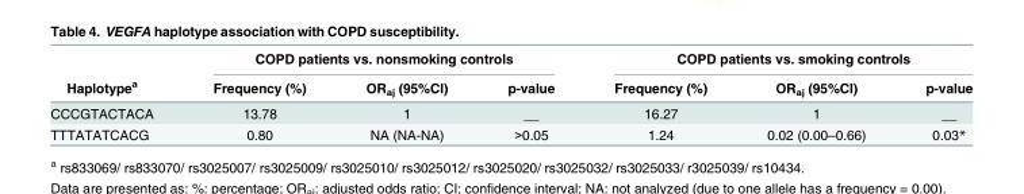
<table><thead><tr><td rowspan="2">Haplotype<sup>a</sup></td><td colspan="3">COPD patients vs. nonsmoking controls</td><td colspan="3">COPD patients vs. smoking controls</td></tr><tr><td>Frequency (%)</td><td>OR<sub>aj</sub> (95%CI)</td><td>p-value</td><td>Frequency (%)</td><td>OR<sub>aj</sub> (95%CI)</td><td>p-value</td></tr></thead><tbody><tr><td>CCCGTACTACA</td><td>13.78</td><td>1</td><td>__</td><td>16.27</td><td>1</td><td>__</td></tr><tr><td>TTTATATCACG</td><td>0.80</td><td>NA (NA-NA)</td><td>&gt;0.05</td><td>1.24</td><td>0.02 (0.00–0.66)</td><td>0.03*</td></tr></tbody></table>